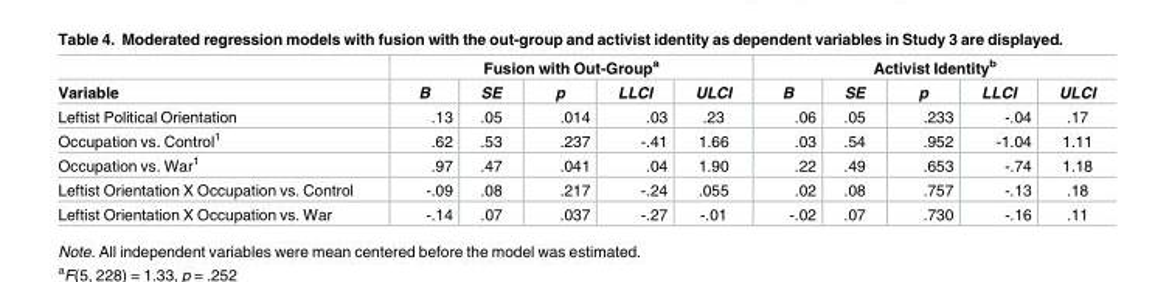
<table><thead><tr><td rowspan="2">Variable</td><td colspan="5">Fusion with Out-Group<sup>a</sup></td><td colspan="5">Activist Identity<sup>b</sup></td></tr><tr><td>B</td><td>SE</td><td>p</td><td>LLCI</td><td>ULCI</td><td>B</td><td>SE</td><td>p</td><td>LLCI</td><td>ULCI</td></tr></thead><tbody><tr><td>Leftist Political Orientation</td><td>.13</td><td>.05</td><td>.014</td><td>.03</td><td>.23</td><td>.06</td><td>.05</td><td>.233</td><td>-.04</td><td>.17</td></tr><tr><td>Occupation vs. Control<sup>1</sup></td><td>.62</td><td>.53</td><td>.237</td><td>-.41</td><td>1.66</td><td>.03</td><td>.54</td><td>.952</td><td>-1.04</td><td>1.11</td></tr><tr><td>Occupation vs. War<sup>1</sup></td><td>.97</td><td>.47</td><td>.041</td><td>.04</td><td>1.90</td><td>.22</td><td>.49</td><td>.653</td><td>-.74</td><td>1.18</td></tr><tr><td>Leftist Orientation X Occupation vs. Control</td><td>-.09</td><td>.08</td><td>.217</td><td>-.24</td><td>.055</td><td>.02</td><td>.08</td><td>.757</td><td>-.13</td><td>.18</td></tr><tr><td>Leftist Orientation X Occupation vs. War</td><td>-.14</td><td>.07</td><td>.037</td><td>-.27</td><td>-.01</td><td>-.02</td><td>.07</td><td>.730</td><td>-.16</td><td>.11</td></tr></tbody></table>